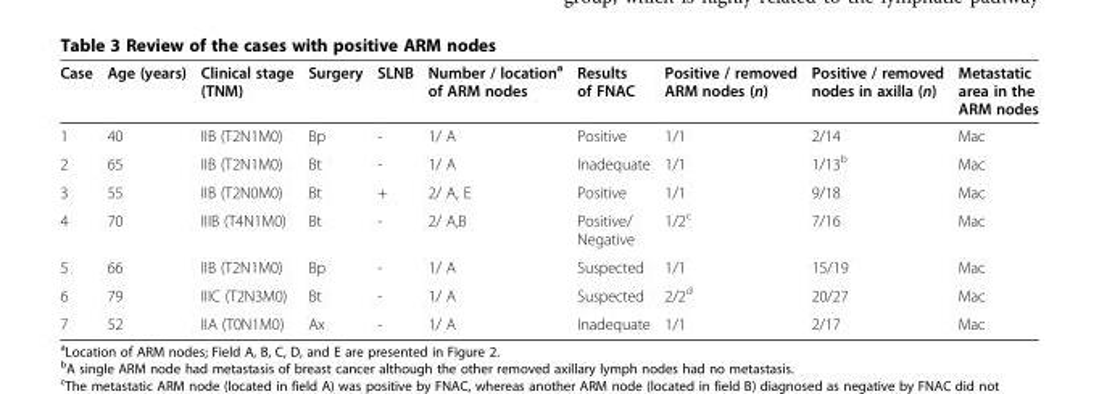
<table><thead><tr><td>Case</td><td>Age (years)</td><td>Clinical stage (TNM)</td><td>Surgery</td><td>SLNB</td><td>Number / location<sup>a</sup> of ARM nodes</td><td>Results of FNAC</td><td>Positive / removed ARM nodes (n)</td><td>Positive / removed nodes in axilla (n)</td><td>Metastatic area in the ARM nodes</td></tr></thead><tbody><tr><td>1</td><td>40</td><td>IIB (T2N1M0)</td><td>Bp</td><td>-</td><td>1/ A</td><td>Positive</td><td>1/1</td><td>2/14</td><td>Mac</td></tr><tr><td>2</td><td>65</td><td>IIB (T2N1M0)</td><td>Bt</td><td>-</td><td>1/ A</td><td>Inadequate</td><td>1/1</td><td>1/13<sup>b</sup></td><td>Mac</td></tr><tr><td>3</td><td>55</td><td>IIB (T2N0M0)</td><td>Bt</td><td>+</td><td>2/ A, E</td><td>Positive</td><td>1/1</td><td>9/18</td><td>Mac</td></tr><tr><td>4</td><td>70</td><td>IIIB (T4N1M0)</td><td>Bt</td><td>-</td><td>2/ A,B</td><td>Positive/ Negative</td><td>1/2<sup>c</sup></td><td>7/16</td><td>Mac</td></tr><tr><td>5</td><td>66</td><td>IIB (T2N1M0)</td><td>Bp</td><td>-</td><td>1/ A</td><td>Suspected</td><td>1/1</td><td>15/19</td><td>Mac</td></tr><tr><td>6</td><td>79</td><td>IIIC (T2N3M0)</td><td>Bt</td><td>-</td><td>1/ A</td><td>Suspected</td><td>2/2<sup>d</sup></td><td>20/27</td><td>Mac</td></tr><tr><td>7</td><td>52</td><td>IIA (T0N1M0)</td><td>Ax</td><td>-</td><td>1/ A</td><td>Inadequate</td><td>1/1</td><td>2/17</td><td>Mac</td></tr></tbody></table>